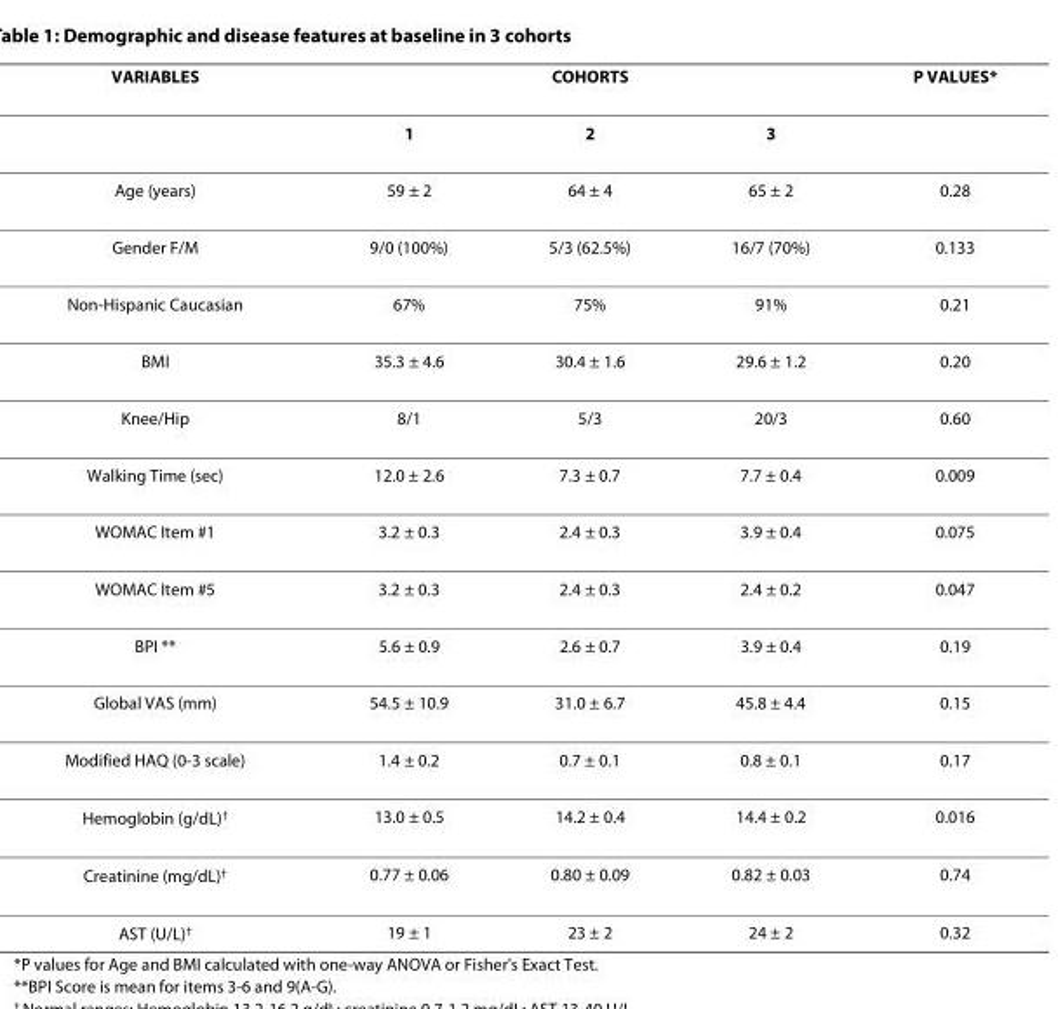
<table><thead><tr><td rowspan="2">VARIABLES</td><td colspan="3">COHORTS</td><td rowspan="2">P VALUES*</td></tr><tr><td>1</td><td>2</td><td>3</td></tr></thead><tbody><tr><td>Age (years)</td><td>59 ± 2</td><td>64 ± 4</td><td>65 ± 2</td><td>0.28</td></tr><tr><td>Gender F/M</td><td>9/0 (100%)</td><td>5/3 (62.5%)</td><td>16/7 (70%)</td><td>0.133</td></tr><tr><td>Non-Hispanic Caucasian</td><td>67%</td><td>75%</td><td>91%</td><td>0.21</td></tr><tr><td>BMI</td><td>35.3 ± 4.6</td><td>30.4 ± 1.6</td><td>29.6 ± 1.2</td><td>0.20</td></tr><tr><td>Knee/Hip</td><td>8/1</td><td>5/3</td><td>20/3</td><td>0.60</td></tr><tr><td>Walking Time (sec)</td><td>12.0 ± 2.6</td><td>7.3 ± 0.7</td><td>7.7 ± 0.4</td><td>0.009</td></tr><tr><td>WOMAC Item #1</td><td>3.2 ± 0.3</td><td>2.4 ± 0.3</td><td>3.9 ± 0.4</td><td>0.075</td></tr><tr><td>WOMAC Item #5</td><td>3.2 ± 0.3</td><td>2.4 ± 0.3</td><td>2.4 ± 0.2</td><td>0.047</td></tr><tr><td>BPI **</td><td>5.6 ± 0.9</td><td>2.6 ± 0.7</td><td>3.9 ± 0.4</td><td>0.19</td></tr><tr><td>Global VAS (mm)</td><td>54.5 ± 10.9</td><td>31.0 ± 6.7</td><td>45.8 ± 4.4</td><td>0.15</td></tr><tr><td>Modified HAQ (0-3 scale)</td><td>1.4 ± 0.2</td><td>0.7 ± 0.1</td><td>0.8 ± 0.1</td><td>0.17</td></tr><tr><td>Hemoglobin (g/dL)<sup>†</sup></td><td>13.0 ± 0.5</td><td>14.2 ± 0.4</td><td>14.4 ± 0.2</td><td>0.016</td></tr><tr><td>Creatinine (mg/dL)<sup>†</sup></td><td>0.77 ± 0.06</td><td>0.80 ± 0.09</td><td>0.82 ± 0.03</td><td>0.74</td></tr><tr><td>AST (U/L)<sup>†</sup></td><td>19 ± 1</td><td>23 ± 2</td><td>24 ± 2</td><td>0.32</td></tr></tbody></table>